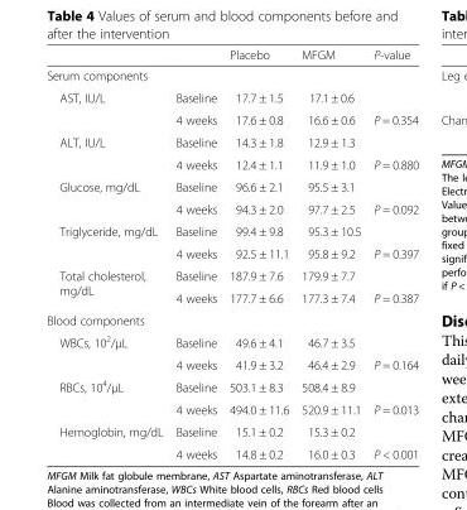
<table><thead><tr><td></td><td></td><td>Placebo</td><td>MFGM</td><td>P-value</td></tr></thead><tbody><tr><td colspan="5">Serum components</td></tr><tr><td rowspan="2">AST, IU/L</td><td>Baseline</td><td>17.7 ± 1.5</td><td>17.1 ± 0.6</td><td></td></tr><tr><td>4 weeks</td><td>17.6 ± 0.8</td><td>16.6 ± 0.6</td><td>P = 0.354</td></tr><tr><td rowspan="2">ALT, IU/L</td><td>Baseline</td><td>14.3 ± 1.8</td><td>12.9 ± 1.3</td><td></td></tr><tr><td>4 weeks</td><td>12.4 ± 1.1</td><td>11.9 ± 1.0</td><td>P = 0.880</td></tr><tr><td rowspan="2">Glucose, mg/dL</td><td>Baseline</td><td>96.6 ± 2.1</td><td>95.5 ± 3.1</td><td></td></tr><tr><td>4 weeks</td><td>94.3 ± 2.0</td><td>97.7 ± 2.5</td><td>P = 0.092</td></tr><tr><td rowspan="2">Triglyceride, mg/dL</td><td>Baseline</td><td>99.4 ± 9.8</td><td>95.3 ± 10.5</td><td></td></tr><tr><td>4 weeks</td><td>92.5 ± 11.1</td><td>95.8 ± 9.2</td><td>P = 0.397</td></tr><tr><td rowspan="2">Total cholesterol, mg/dL</td><td>Baseline</td><td>187.9 ± 7.6</td><td>179.9 ± 7.7</td><td></td></tr><tr><td>4 weeks</td><td>177.7 ± 6.6</td><td>177.3 ± 7.4</td><td>P = 0.387</td></tr><tr><td colspan="5">Blood components</td></tr><tr><td rowspan="2">WBCs, 10<sup>2</sup>/μL</td><td>Baseline</td><td>49.6 ± 4.1</td><td>46.7 ± 3.5</td><td></td></tr><tr><td>4 weeks</td><td>41.9 ± 3.2</td><td>46.4 ± 2.9</td><td>P = 0.164</td></tr><tr><td rowspan="2">RBCs, 10<sup>4</sup>/μL</td><td>Baseline</td><td>503.1 ± 8.3</td><td>508.4 ± 8.9</td><td></td></tr><tr><td>4 weeks</td><td>494.0 ± 11.6</td><td>520.9 ± 11.1</td><td>P = 0.013</td></tr><tr><td rowspan="2">Hemoglobin, mg/dL</td><td>Baseline</td><td>15.1 ± 0.2</td><td>15.3 ± 0.2</td><td></td></tr><tr><td>4 weeks</td><td>14.8 ± 0.2</td><td>16.0 ± 0.3</td><td>P &lt; 0.001</td></tr></tbody></table>